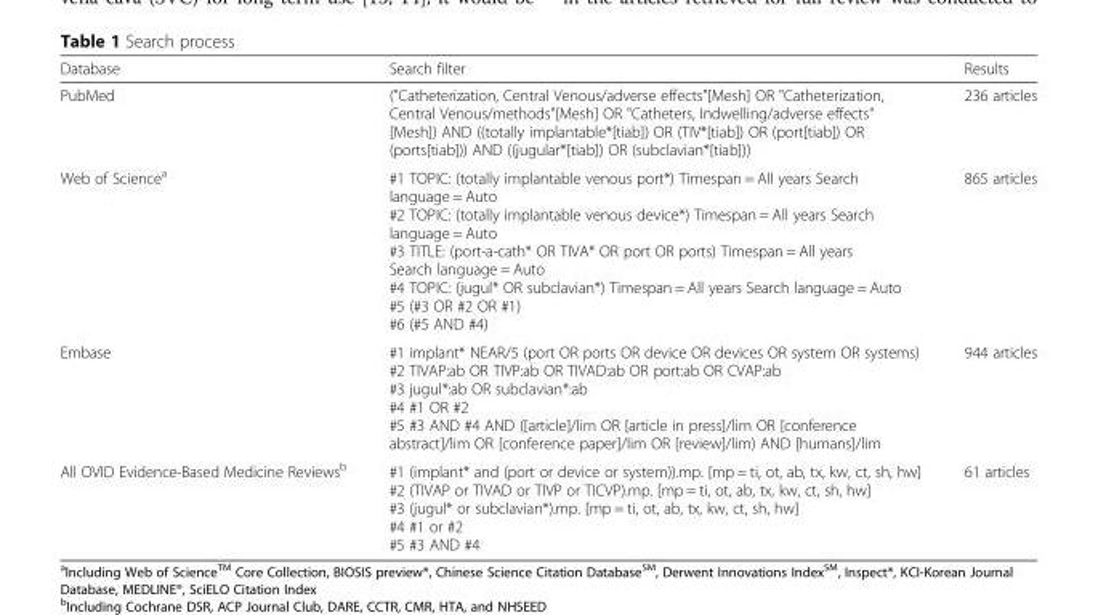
<table><thead><tr><td>Database</td><td>Search filter</td><td>Results</td></tr></thead><tbody><tr><td>PubMed</td><td>(&quot;Catheterization, Central Venous/adverse effects&quot;[Mesh] OR &quot;Catheterization, Central Venous/methods&quot;[Mesh] OR &quot;Catheters, Indwelling/adverse effects&quot; [Mesh]) AND ((totally implantable*[tiab]) OR (TIV*[tiab]) OR (port[tiab]) OR (ports[tiab])) AND ((jugular*[tiab]) OR (subclavian*[tiab]))</td><td>236 articles</td></tr><tr><td>Web of Science<sup>a</sup></td><td>#1 TOPIC: (totally implantable venous port*) Timespan = All years Search language = Auto #2 TOPIC: (totally implantable venous device*) Timespan = All years Search language = Auto #3 TITLE: (port-a-cath* OR TIVA* OR port OR ports) Timespan = All years Search language = Auto #4 TOPIC: (jugul* OR subclavian*) Timespan = All years Search language = Auto #5 (#3 OR #2 OR #1) #6 (#5 AND #4)</td><td>865 articles</td></tr><tr><td>Embase</td><td>#1 implant* NEAR/5 (port OR ports OR device OR devices OR system OR systems) #2 TIVAP:ab OR TIVP:ab OR TIVAD:ab OR port:ab OR CVAP:ab #3 jugul*:ab OR subclavian*:ab #4 #1 OR #2 #5 #3 AND #4 AND ([article]/lim OR [article in press]/lim OR [conference abstract]/lim OR [conference paper]/lim OR [review]/lim) AND [humans]/lim</td><td>944 articles</td></tr><tr><td>All OVID Evidence-Based Medicine Reviews<sup>b</sup></td><td>#1 (implant* and (port or device or system)).mp. [mp = ti, ot, ab, tx, kw, ct, sh, hw] #2 (TIVAP or TIVAD or TIVP or TICVP).mp. [mp = ti, ot, ab, tx, kw, ct, sh, hw] #3 (jugul* or subclavian*).mp. [mp = ti, ot, ab, tx, kw, ct, sh, hw] #4 #1 or #2 #5 #3 AND #4</td><td>61 articles</td></tr></tbody></table>